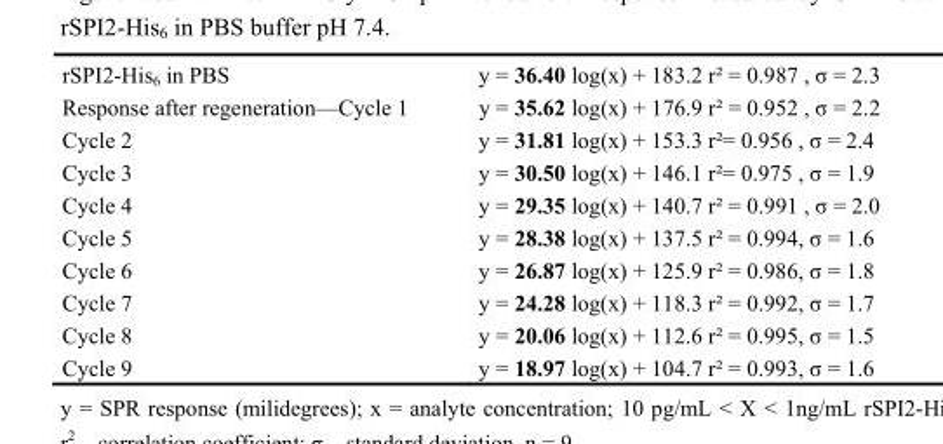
<table><tbody><tr><td>rSPI2-His<sub>6</sub> in PBS</td><td>y = 36.40 log(x) + 183.2 r² = 0.987 , σ = 2.3</td></tr><tr><td>Response after regeneration—Cycle 1</td><td>y = 35.62 log(x) + 176.9 r² = 0.952 , σ = 2.2</td></tr><tr><td>Cycle 2</td><td>y = 31.81 log(x) + 153.3 r²= 0.956 , σ = 2.4</td></tr><tr><td>Cycle 3</td><td>y = 30.50 log(x) + 146.1 r²= 0.975 , σ = 1.9</td></tr><tr><td>Cycle 4</td><td>y = 29.35 log(x) + 140.7 r² = 0.991 , σ = 2.0</td></tr><tr><td>Cycle 5</td><td>y = 28.38 log(x) + 137.5 r² = 0.994, σ = 1.6</td></tr><tr><td>Cycle 6</td><td>y = 26.87 log(x) + 125.9 r² = 0.986, σ = 1.8</td></tr><tr><td>Cycle 7</td><td>y = 24.28 log(x) + 118.3 r² = 0.992, σ = 1.7</td></tr><tr><td>Cycle 8</td><td>y = 20.06 log(x) + 112.6 r² = 0.995, σ = 1.5</td></tr><tr><td>Cycle 9</td><td>y = 18.97 log(x) + 104.7 r² = 0.993, σ = 1.6</td></tr></tbody></table>